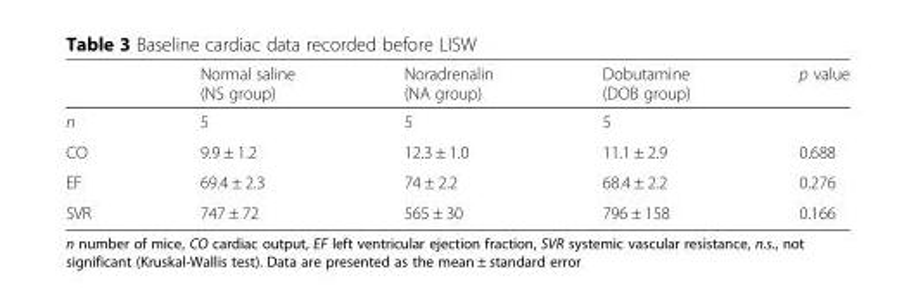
<table><thead><tr><td></td><td>Normal saline (NS group)</td><td>Noradrenalin (NA group)</td><td>Dobutamine (DOB group)</td><td>p value</td></tr></thead><tbody><tr><td>n</td><td>5</td><td>5</td><td>5</td><td></td></tr><tr><td>CO</td><td>9.9 ± 1.2</td><td>12.3 ± 1.0</td><td>11.1 ± 2.9</td><td>0.688</td></tr><tr><td>EF</td><td>69.4 ± 2.3</td><td>74 ± 2.2</td><td>68.4 ± 2.2</td><td>0.276</td></tr><tr><td>SVR</td><td>747 ± 72</td><td>565 ± 30</td><td>796 ± 158</td><td>0.166</td></tr></tbody></table>